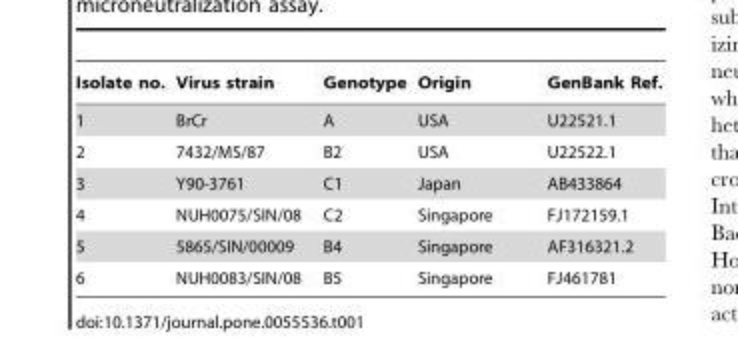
<table><thead><tr><td>Isolate no.</td><td>Virus strain</td><td>Genotype</td><td>Origin</td><td>GenBank Ref.</td></tr></thead><tbody><tr><td>1</td><td>BrCr</td><td>A</td><td>USA</td><td>U22521.1</td></tr><tr><td>2</td><td>7432/MS/87</td><td>B2</td><td>USA</td><td>U22522.1</td></tr><tr><td>3</td><td>Y90-3761</td><td>C1</td><td>Japan</td><td>AB433864</td></tr><tr><td>4</td><td>NUH0075/SIN/08</td><td>C2</td><td>Singapore</td><td>FJ172159.1</td></tr><tr><td>5</td><td>5865/SIN/00009</td><td>B4</td><td>Singapore</td><td>AF316321.2</td></tr><tr><td>6</td><td>NUH0083/SIN/08</td><td>B5</td><td>Singapore</td><td>FJ461781</td></tr></tbody></table>